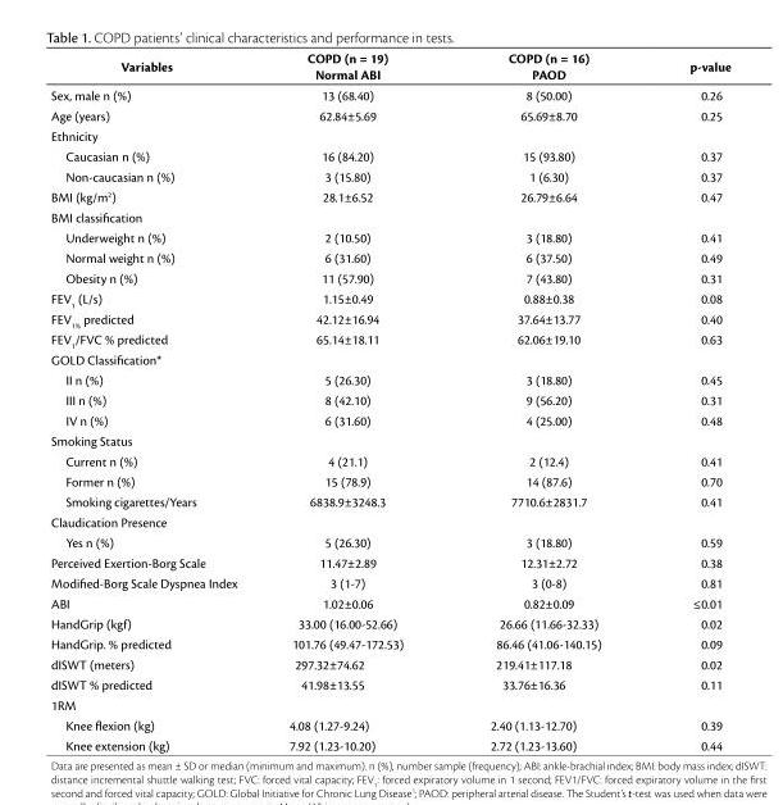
<table><thead><tr><td>Variables</td><td>COPD (n = 19) Normal ABI</td><td>COPD (n = 16) PAOD</td><td>p-value</td></tr></thead><tbody><tr><td>Sex, male n (%)</td><td>13 (68.40)</td><td>8 (50.00)</td><td>0.26</td></tr><tr><td>Age (years)</td><td>62.84±5.69</td><td>65.69±8.70</td><td>0.25</td></tr><tr><td colspan="4">Ethnicity</td></tr><tr><td>Caucasian n (%)</td><td>16 (84.20)</td><td>15 (93.80)</td><td>0.37</td></tr><tr><td>Non-caucasian n (%)</td><td>3 (15.80)</td><td>1 (6.30)</td><td>0.37</td></tr><tr><td>BMI (kg/m<sup>2</sup>)</td><td>28.1±6.52</td><td>26.79±6.64</td><td>0.47</td></tr><tr><td colspan="4">BMI classification</td></tr><tr><td>Underweight n (%)</td><td>2 (10.50)</td><td>3 (18.80)</td><td>0.41</td></tr><tr><td>Normal weight n (%)</td><td>6 (31.60)</td><td>6 (37.50)</td><td>0.49</td></tr><tr><td>Obesity n (%)</td><td>11 (57.90)</td><td>7 (43.80)</td><td>0.31</td></tr><tr><td>FEV<sub>1</sub> (L/s)</td><td>1.15±0.49</td><td>0.88±0.38</td><td>0.08</td></tr><tr><td>FEV<sub>1%</sub> predicted</td><td>42.12±16.94</td><td>37.64±13.77</td><td>0.40</td></tr><tr><td>FEV<sub>1</sub>/FVC % predicted</td><td>65.14±18.11</td><td>62.06±19.10</td><td>0.63</td></tr><tr><td colspan="4">GOLD Classification*</td></tr><tr><td>II n (%)</td><td>5 (26.30)</td><td>3 (18.80)</td><td>0.45</td></tr><tr><td>III n (%)</td><td>8 (42.10)</td><td>9 (56.20)</td><td>0.31</td></tr><tr><td>IV n (%)</td><td>6 (31.60)</td><td>4 (25.00)</td><td>0.48</td></tr><tr><td colspan="4">Smoking Status</td></tr><tr><td>Current n (%)</td><td>4 (21.1)</td><td>2 (12.4)</td><td>0.41</td></tr><tr><td>Former n (%)</td><td>15 (78.9)</td><td>14 (87.6)</td><td>0.70</td></tr><tr><td>Smoking cigarettes/Years</td><td>6838.9±3248.3</td><td>7710.6±2831.7</td><td>0.41</td></tr><tr><td colspan="4">Claudication Presence</td></tr><tr><td>Yes n (%)</td><td>5 (26.30)</td><td>3 (18.80)</td><td>0.59</td></tr><tr><td>Perceived Exertion-Borg Scale</td><td>11.47±2.89</td><td>12.31±2.72</td><td>0.38</td></tr><tr><td>Modified-Borg Scale Dyspnea Index</td><td>3 (1-7)</td><td>3 (0-8)</td><td>0.81</td></tr><tr><td>ABI</td><td>1.02±0.06</td><td>0.82±0.09</td><td>≤0.01</td></tr><tr><td>HandGrip (kgf)</td><td>33.00 (16.00-52.66)</td><td>26.66 (11.66-32.33)</td><td>0.02</td></tr><tr><td>HandGrip. % predicted</td><td>101.76 (49.47-172.53)</td><td>86.46 (41.06-140.15)</td><td>0.09</td></tr><tr><td>dISWT (meters)</td><td>297.32±74.62</td><td>219.41±117.18</td><td>0.02</td></tr><tr><td>dISWT % predicted</td><td>41.98±13.55</td><td>33.76±16.36</td><td>0.11</td></tr><tr><td colspan="4">1RM</td></tr><tr><td>Knee flexion (kg)</td><td>4.08 (1.27-9.24)</td><td>2.40 (1.13-12.70)</td><td>0.39</td></tr><tr><td>Knee extension (kg)</td><td>7.92 (1.23-10.20)</td><td>2.72 (1.23-13.60)</td><td>0.44</td></tr></tbody></table>